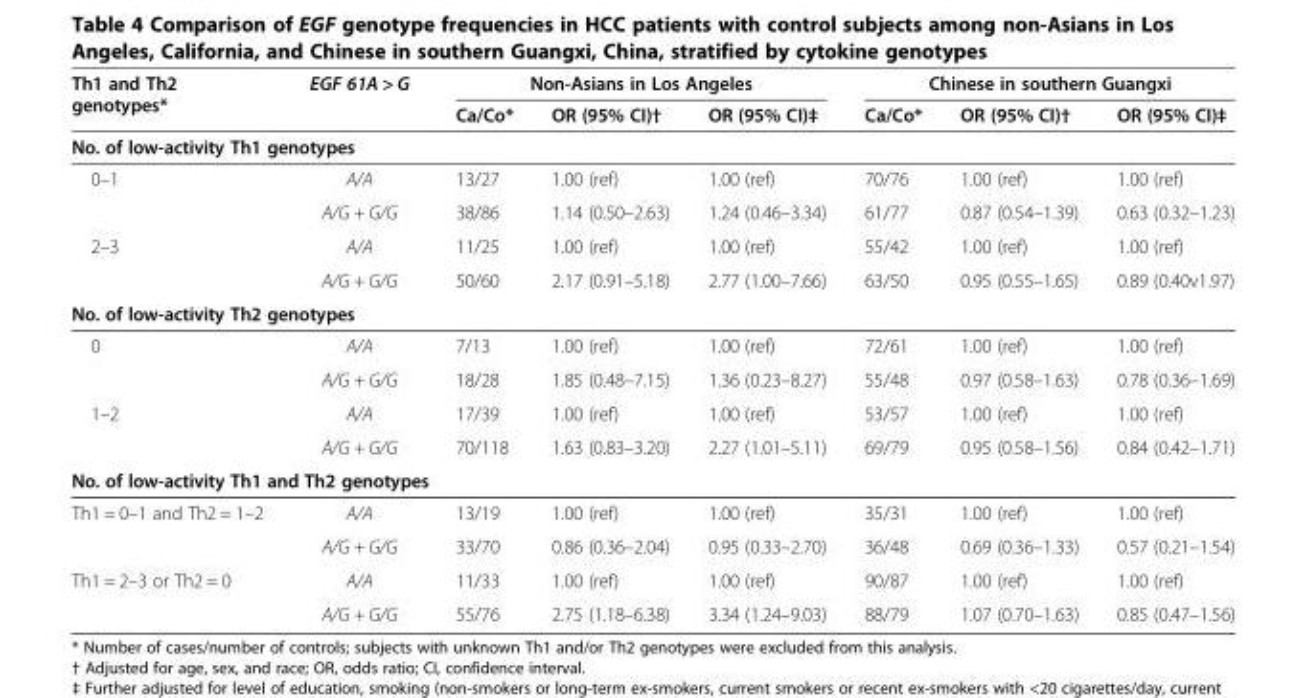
<table><thead><tr><td rowspan="2">Th1 and Th2 genotypes*</td><td rowspan="2">EGF 61A &gt; G</td><td colspan="3">Non-Asians in Los Angeles</td><td colspan="3">Chinese in southern Guangxi</td></tr><tr><td>Ca/Co*</td><td>OR (95% CI)†</td><td>OR (95% CI)‡</td><td>Ca/Co*</td><td>OR (95% CI)†</td><td>OR (95% CI)‡</td></tr></thead><tbody><tr><td colspan="8">No. of low-activity Th1 genotypes</td></tr><tr><td rowspan="2">0–1</td><td>A/A</td><td>13/27</td><td>1.00 (ref)</td><td>1.00 (ref)</td><td>70/76</td><td>1.00 (ref)</td><td>1.00 (ref)</td></tr><tr><td>A/G + G/G</td><td>38/86</td><td>1.14 (0.50–2.63)</td><td>1.24 (0.46–3.34)</td><td>61/77</td><td>0.87 (0.54–1.39)</td><td>0.63 (0.32–1.23)</td></tr><tr><td rowspan="2">2–3</td><td>A/A</td><td>11/25</td><td>1.00 (ref)</td><td>1.00 (ref)</td><td>55/42</td><td>1.00 (ref)</td><td>1.00 (ref)</td></tr><tr><td>A/G + G/G</td><td>50/60</td><td>2.17 (0.91–5.18)</td><td>2.77 (1.00–7.66)</td><td>63/50</td><td>0.95 (0.55–1.65)</td><td>0.89 (0.40v1.97)</td></tr><tr><td colspan="8">No. of low-activity Th2 genotypes</td></tr><tr><td rowspan="2">0</td><td>A/A</td><td>7/13</td><td>1.00 (ref)</td><td>1.00 (ref)</td><td>72/61</td><td>1.00 (ref)</td><td>1.00 (ref)</td></tr><tr><td>A/G + G/G</td><td>18/28</td><td>1.85 (0.48–7.15)</td><td>1.36 (0.23–8.27)</td><td>55/48</td><td>0.97 (0.58–1.63)</td><td>0.78 (0.36–1.69)</td></tr><tr><td rowspan="2">1–2</td><td>A/A</td><td>17/39</td><td>1.00 (ref)</td><td>1.00 (ref)</td><td>53/57</td><td>1.00 (ref)</td><td>1.00 (ref)</td></tr><tr><td>A/G + G/G</td><td>70/118</td><td>1.63 (0.83–3.20)</td><td>2.27 (1.01–5.11)</td><td>69/79</td><td>0.95 (0.58–1.56)</td><td>0.84 (0.42–1.71)</td></tr><tr><td colspan="8">No. of low-activity Th1 and Th2 genotypes</td></tr><tr><td rowspan="2">Th1 = 0–1 and Th2 = 1–2</td><td>A/A</td><td>13/19</td><td>1.00 (ref)</td><td>1.00 (ref)</td><td>35/31</td><td>1.00 (ref)</td><td>1.00 (ref)</td></tr><tr><td>A/G + G/G</td><td>33/70</td><td>0.86 (0.36–2.04)</td><td>0.95 (0.33–2.70)</td><td>36/48</td><td>0.69 (0.36–1.33)</td><td>0.57 (0.21–1.54)</td></tr><tr><td rowspan="2">Th1 = 2–3 or Th2 = 0</td><td>A/A</td><td>11/33</td><td>1.00 (ref)</td><td>1.00 (ref)</td><td>90/87</td><td>1.00 (ref)</td><td>1.00 (ref)</td></tr><tr><td>A/G + G/G</td><td>55/76</td><td>2.75 (1.18–6.38)</td><td>3.34 (1.24–9.03)</td><td>88/79</td><td>1.07 (0.70–1.63)</td><td>0.85 (0.47–1.56)</td></tr></tbody></table>